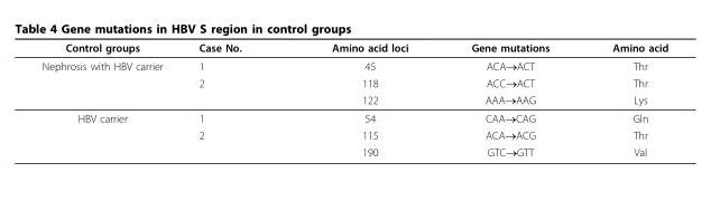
<table><thead><tr><td>Control groups</td><td>Case No.</td><td>Amino acid loci</td><td>Gene mutations</td><td>Amino acid</td></tr></thead><tbody><tr><td rowspan="3">Nephrosis with HBV carrier</td><td>1</td><td>45</td><td>ACA→ACT</td><td>Thr</td></tr><tr><td>2</td><td>118</td><td>ACC→ACT</td><td>Thr</td></tr><tr><td></td><td>122</td><td>AAA→AAG</td><td>Lys</td></tr><tr><td rowspan="3">HBV carrier</td><td>1</td><td>54</td><td>CAA→CAG</td><td>Gln</td></tr><tr><td>2</td><td>115</td><td>ACA→ACG</td><td>Thr</td></tr><tr><td></td><td>190</td><td>GTC→GTT</td><td>Val</td></tr></tbody></table>